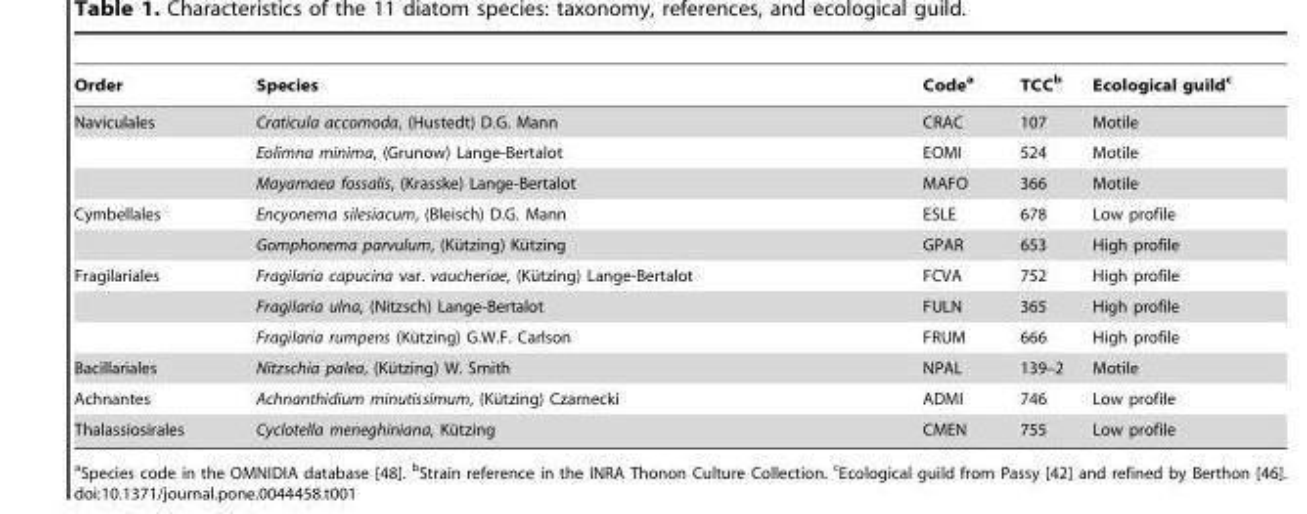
<table><thead><tr><td>Order</td><td>Species</td><td>Code<sup>a</sup></td><td>TCC<sup>b</sup></td><td>Ecological guild<sup>c</sup></td></tr></thead><tbody><tr><td rowspan="3">Naviculales</td><td>Craticula accomoda, (Hustedt) D.G. Mann</td><td>CRAC</td><td>107</td><td>Motile</td></tr><tr><td>Eolimna minima, (Grunow) Lange-Bertalot</td><td>EOMI</td><td>524</td><td>Motile</td></tr><tr><td>Mayamaea fossalis, (Krasske) Lange-Bertalot</td><td>MAFO</td><td>366</td><td>Motile</td></tr><tr><td rowspan="2">Cymbellales</td><td>Encyonema silesiacum, (Bleisch) D.G. Mann</td><td>ESLE</td><td>678</td><td>Low profile</td></tr><tr><td>Gomphonema parvulum, (Ku¨tzing) Ku¨tzing</td><td>GPAR</td><td>653</td><td>High profile</td></tr><tr><td rowspan="3">Fragilariales</td><td>Fragilaria capucina var. vaucheriae, (Ku¨tzing) Lange-Bertalot</td><td>FCVA</td><td>752</td><td>High profile</td></tr><tr><td>Fragilaria ulna, (Nitzsch) Lange-Bertalot</td><td>FULN</td><td>365</td><td>High profile</td></tr><tr><td>Fragilaria rumpens (Ku¨tzing) G.W.F. Carlson</td><td>FRUM</td><td>666</td><td>High profile</td></tr><tr><td>Bacillariales</td><td>Nitzschia palea, (Ku¨tzing) W. Smith</td><td>NPAL</td><td>139–2</td><td>Motile</td></tr><tr><td>Achnantes</td><td>Achnanthidium minutissimum, (Ku¨tzing) Czarnecki</td><td>ADMI</td><td>746</td><td>Low profile</td></tr><tr><td>Thalassiosirales</td><td>Cyclotella meneghiniana, Ku¨tzing</td><td>CMEN</td><td>755</td><td>Low profile</td></tr></tbody></table>